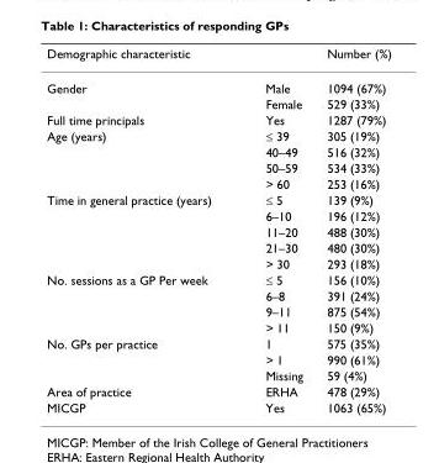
<table><thead><tr><td colspan="2">Demographic characteristic</td><td rowspan="2">Number (%) 1094 (67%)</td></tr><tr><td>Gender</td><td>Male</td></tr></thead><tbody><tr><td></td><td>Female</td><td>529 (33%)</td></tr><tr><td>Full time principals</td><td>Yes</td><td>1287 (79%)</td></tr><tr><td rowspan="4">Age (years)</td><td>≤ 39</td><td>305 (19%)</td></tr><tr><td>40–49</td><td>516 (32%)</td></tr><tr><td>50–59</td><td>534 (33%)</td></tr><tr><td>&gt; 60</td><td>253 (16%)</td></tr><tr><td rowspan="5">Time in general practice (years)</td><td>≤ 5</td><td>139 (9%)</td></tr><tr><td>6–10</td><td>196 (12%)</td></tr><tr><td>11–20</td><td>488 (30%)</td></tr><tr><td>21–30</td><td>480 (30%)</td></tr><tr><td>&gt; 30</td><td>293 (18%)</td></tr><tr><td rowspan="4">No. sessions as a GP Per week</td><td>≤ 5</td><td>156 (10%)</td></tr><tr><td>6–8</td><td>391 (24%)</td></tr><tr><td>9–11</td><td>875 (54%)</td></tr><tr><td>&gt; 11</td><td>150 (9%)</td></tr><tr><td rowspan="3">No. GPs per practice</td><td>1</td><td>575 (35%)</td></tr><tr><td>&gt; 1</td><td>990 (61%)</td></tr><tr><td>Missing</td><td>59 (4%)</td></tr><tr><td>Area of practice</td><td>ERHA</td><td>478 (29%)</td></tr><tr><td>MICGP</td><td>Yes</td><td>1063 (65%)</td></tr></tbody></table>